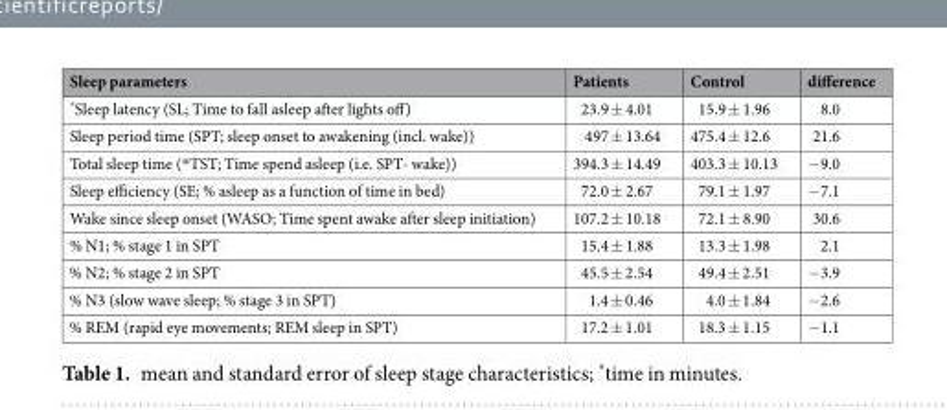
<table><thead><tr><td>Sleep parameters</td><td>Patients</td><td>Control</td><td>difference</td></tr></thead><tbody><tr><td>*Sleep latency (SL; Time to fall asleep after lights off)</td><td>23.9 ± 4.01</td><td>15.9 ± 1.96</td><td>8.0</td></tr><tr><td>Sleep period time (SPT; sleep onset to awakening (incl. wake))</td><td>497 ± 13.64</td><td>475.4 ± 12.6</td><td>21.6</td></tr><tr><td>Total sleep time (*TST; Time spend asleep (i.e. SPT- wake))</td><td>394.3 ± 14.49</td><td>403.3 ± 10.13</td><td>−9.0</td></tr><tr><td>Sleep efficiency (SE; % asleep as a function of time in bed)</td><td>72.0 ± 2.67</td><td>79.1 ± 1.97</td><td>−7.1</td></tr><tr><td>Wake since sleep onset (WASO; Time spent awake after sleep initiation)</td><td>107.2 ± 10.18</td><td>72.1 ± 8.90</td><td>30.6</td></tr><tr><td>% N1; % stage 1 in SPT</td><td>15.4 ± 1.88</td><td>13.3 ± 1.98</td><td>2.1</td></tr><tr><td>% N2; % stage 2 in SPT</td><td>45.5 ± 2.54</td><td>49.4 ± 2.51</td><td>−3.9</td></tr><tr><td>% N3 (slow wave sleep; % stage 3 in SPT)</td><td>1.4 ± 0.46</td><td>4.0 ± 1.84</td><td>−2.6</td></tr><tr><td>% REM (rapid eye movements; REM sleep in SPT)</td><td>17.2 ± 1.01</td><td>18.3 ± 1.15</td><td>−1.1</td></tr></tbody></table>